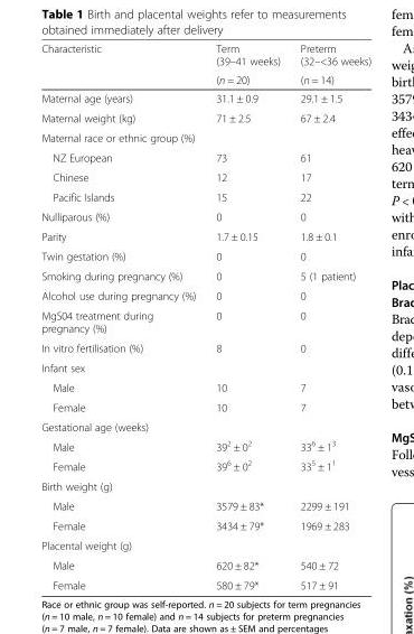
<table><thead><tr><td rowspan="2">Characteristic</td><td rowspan="2">Term (39–41 weeks) (n = 20)</td><td rowspan="2">Preterm (32–&lt;36 weeks) (n = 14)</td></tr><tr></tr></thead><tbody><tr><td>Maternal age (years)</td><td>31.1 ± 0.9</td><td>29.1 ± 1.5</td></tr><tr><td>Maternal weight (kg)</td><td>71 ± 2.5</td><td>67 ± 2.4</td></tr><tr><td colspan="3">Maternal race or ethnic group (%)</td></tr><tr><td>NZ European</td><td>73</td><td>61</td></tr><tr><td>Chinese</td><td>12</td><td>17</td></tr><tr><td>Pacific Islands</td><td>15</td><td>22</td></tr><tr><td>Nulliparous (%)</td><td>0</td><td>0</td></tr><tr><td>Parity</td><td>1.7 ± 0.15</td><td>1.8 ± 0.1</td></tr><tr><td>Twin gestation (%)</td><td>0</td><td>0</td></tr><tr><td>Smoking during pregnancy (%)</td><td>0</td><td>5 (1 patient)</td></tr><tr><td>Alcohol use during pregnancy (%)</td><td>0</td><td>0</td></tr><tr><td>MgS04 treatment during pregnancy (%)</td><td>0</td><td>0</td></tr><tr><td>In vitro fertilisation (%)</td><td>8</td><td>0</td></tr><tr><td colspan="3">Infant sex</td></tr><tr><td>Male</td><td>10</td><td>7</td></tr><tr><td>Female</td><td>10</td><td>7</td></tr><tr><td colspan="3">Gestational age (weeks)</td></tr><tr><td>Male</td><td>39<sup>2</sup> ± 0<sup>2</sup></td><td>33<sup>6</sup> ± 1<sup>3</sup></td></tr><tr><td>Female</td><td>39<sup>6</sup> ± 0<sup>2</sup></td><td>33<sup>5</sup> ± 1<sup>1</sup></td></tr><tr><td colspan="3">Birth weight (g)</td></tr><tr><td>Male</td><td>3579 ± 83*</td><td>2299 ± 191</td></tr><tr><td>Female</td><td>3434 ± 79*</td><td>1969 ± 283</td></tr><tr><td colspan="3">Placental weight (g)</td></tr><tr><td>Male</td><td>620 ± 82*</td><td>540 ± 72</td></tr><tr><td>Female</td><td>580 ± 79*</td><td>517 ± 91</td></tr></tbody></table>